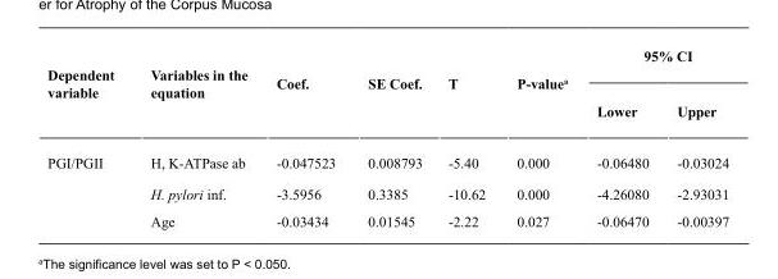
<table><thead><tr><td rowspan="2">Dependent variable</td><td rowspan="2">Variables in the equation</td><td rowspan="2">Coef.</td><td rowspan="2">SE Coef.</td><td rowspan="2">T</td><td rowspan="2">P-value<sup>a</sup></td><td colspan="2">95% CI</td></tr><tr><td>Lower</td><td>Upper</td></tr></thead><tbody><tr><td rowspan="3">PGI/PGII</td><td>H, K-ATPase ab</td><td>-0.047523</td><td>0.008793</td><td>-5.40</td><td>0.000</td><td>-0.06480</td><td>-0.03024</td></tr><tr><td>H. pylori inf.</td><td>-3.5956</td><td>0.3385</td><td>-10.62</td><td>0.000</td><td>-4.26080</td><td>-2.93031</td></tr><tr><td>Age</td><td>-0.03434</td><td>0.01545</td><td>-2.22</td><td>0.027</td><td>-0.06470</td><td>-0.00397</td></tr></tbody></table>